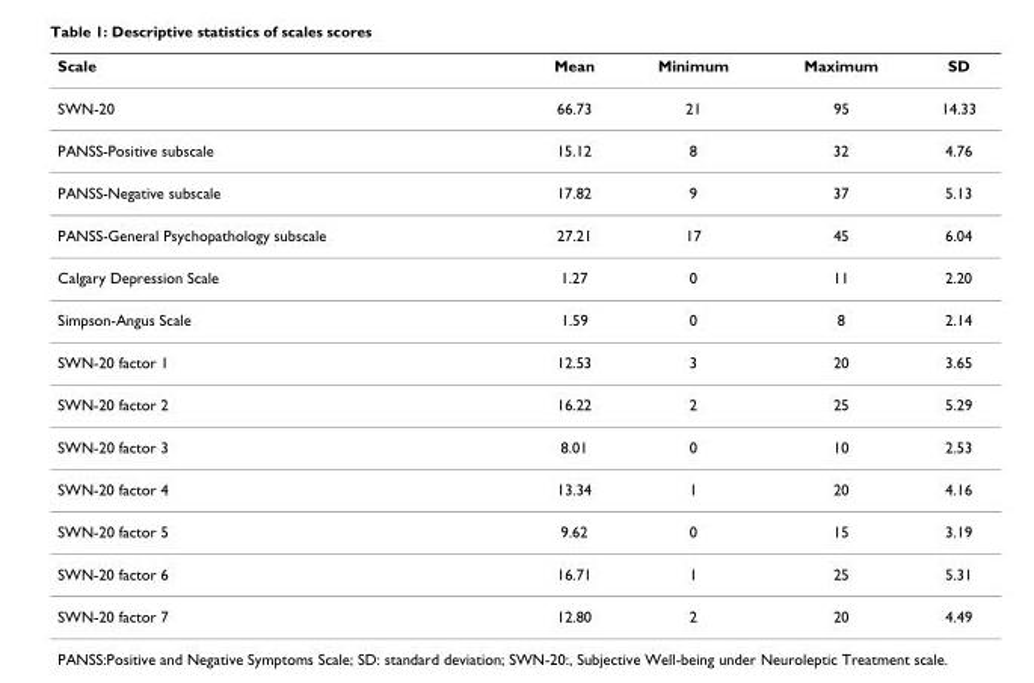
<table><thead><tr><td>Scale</td><td>Mean</td><td>Minimum</td><td>Maximum</td><td>SD</td></tr></thead><tbody><tr><td>SWN-20</td><td>66.73</td><td>21</td><td>95</td><td>14.33</td></tr><tr><td>PANSS-Positive subscale</td><td>15.12</td><td>8</td><td>32</td><td>4.76</td></tr><tr><td>PANSS-Negative subscale</td><td>17.82</td><td>9</td><td>37</td><td>5.13</td></tr><tr><td>PANSS-General Psychopathology subscale</td><td>27.21</td><td>17</td><td>45</td><td>6.04</td></tr><tr><td>Calgary Depression Scale</td><td>1.27</td><td>0</td><td>11</td><td>2.20</td></tr><tr><td>Simpson-Angus Scale</td><td>1.59</td><td>0</td><td>8</td><td>2.14</td></tr><tr><td>SWN-20 factor 1</td><td>12.53</td><td>3</td><td>20</td><td>3.65</td></tr><tr><td>SWN-20 factor 2</td><td>16.22</td><td>2</td><td>25</td><td>5.29</td></tr><tr><td>SWN-20 factor 3</td><td>8.01</td><td>0</td><td>10</td><td>2.53</td></tr><tr><td>SWN-20 factor 4</td><td>13.34</td><td>1</td><td>20</td><td>4.16</td></tr><tr><td>SWN-20 factor 5</td><td>9.62</td><td>0</td><td>15</td><td>3.19</td></tr><tr><td>SWN-20 factor 6</td><td>16.71</td><td>1</td><td>25</td><td>5.31</td></tr><tr><td>SWN-20 factor 7</td><td>12.80</td><td>2</td><td>20</td><td>4.49</td></tr></tbody></table>